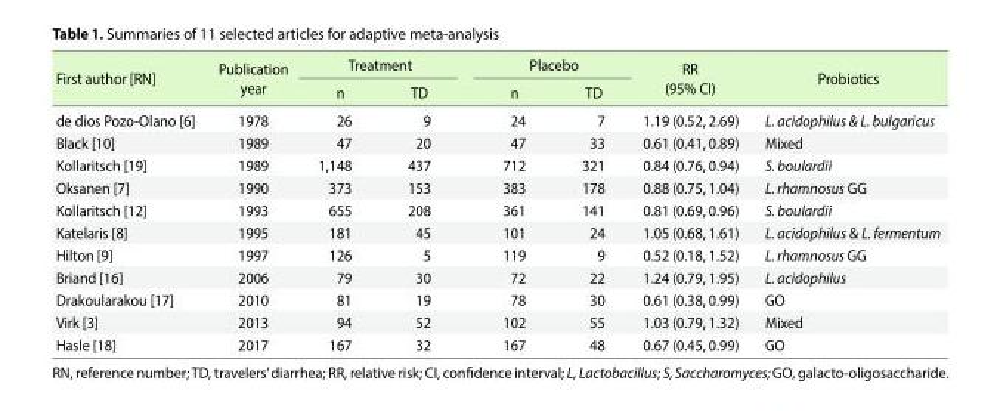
<table><thead><tr><td rowspan="2">First author [RN]</td><td rowspan="2">Publication year</td><td colspan="2">Treatment</td><td colspan="2">Placebo</td><td rowspan="2">RR (95% CI)</td><td rowspan="2">Probiotics</td></tr><tr><td>n</td><td>TD</td><td>n</td><td>TD</td></tr></thead><tbody><tr><td>de dios Pozo-Olano [6]</td><td>1978</td><td>26</td><td>9</td><td>24</td><td>7</td><td>1.19 (0.52, 2.69)</td><td>L. acidophilus &amp; L. bulgaricus</td></tr><tr><td>Black [10]</td><td>1989</td><td>47</td><td>20</td><td>47</td><td>33</td><td>0.61 (0.41, 0.89)</td><td>Mixed</td></tr><tr><td>Kollaritsch [19]</td><td>1989</td><td>1,148</td><td>437</td><td>712</td><td>321</td><td>0.84 (0.76, 0.94)</td><td>S. boulardii</td></tr><tr><td>Oksanen [7]</td><td>1990</td><td>373</td><td>153</td><td>383</td><td>178</td><td>0.88 (0.75, 1.04)</td><td>L. rhamnosus GG</td></tr><tr><td>Kollaritsch [12]</td><td>1993</td><td>655</td><td>208</td><td>361</td><td>141</td><td>0.81 (0.69, 0.96)</td><td>S. boulardii</td></tr><tr><td>Katelaris [8]</td><td>1995</td><td>181</td><td>45</td><td>101</td><td>24</td><td>1.05 (0.68, 1.61)</td><td>L. acidophilus &amp; L. fermentum</td></tr><tr><td>Hilton [9]</td><td>1997</td><td>126</td><td>5</td><td>119</td><td>9</td><td>0.52 (0.18, 1.52)</td><td>L. rhamnosus GG</td></tr><tr><td>Briand [16]</td><td>2006</td><td>79</td><td>30</td><td>72</td><td>22</td><td>1.24 (0.79, 1.95)</td><td>L. acidophilus</td></tr><tr><td>Drakoularakou [17]</td><td>2010</td><td>81</td><td>19</td><td>78</td><td>30</td><td>0.61 (0.38, 0.99)</td><td>GO</td></tr><tr><td>Virk [3]</td><td>2013</td><td>94</td><td>52</td><td>102</td><td>55</td><td>1.03 (0.79, 1.32)</td><td>Mixed</td></tr><tr><td>Hasle [18]</td><td>2017</td><td>167</td><td>32</td><td>167</td><td>48</td><td>0.67 (0.45, 0.99)</td><td>GO</td></tr></tbody></table>